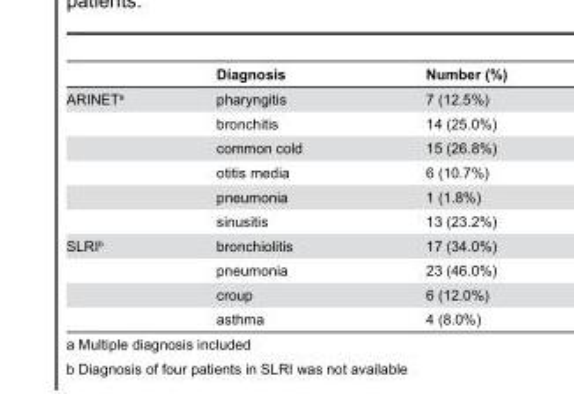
<table><thead><tr><td></td><td>Diagnosis</td><td>Number (%)</td></tr></thead><tbody><tr><td rowspan="6">ARINET<sup>a</sup></td><td>pharyngitis</td><td>7 (12.5%)</td></tr><tr><td>bronchitis</td><td>14 (25.0%)</td></tr><tr><td>common cold</td><td>15 (26.8%)</td></tr><tr><td>otitis media</td><td>6 (10.7%)</td></tr><tr><td>pneumonia</td><td>1 (1.8%)</td></tr><tr><td>sinusitis</td><td>13 (23.2%)</td></tr><tr><td rowspan="4">SLRI<sup>b</sup></td><td>bronchiolitis</td><td>17 (34.0%)</td></tr><tr><td>pneumonia</td><td>23 (46.0%)</td></tr><tr><td>croup</td><td>6 (12.0%)</td></tr><tr><td>asthma</td><td>4 (8.0%)</td></tr></tbody></table>